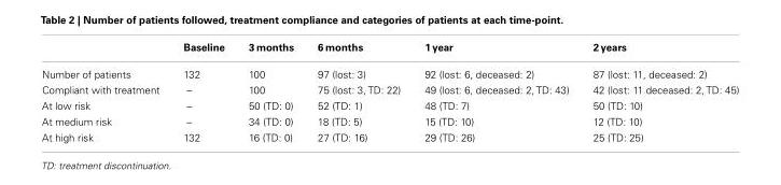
<table><thead><tr><td></td><td>Baseline</td><td>3 months</td><td>6 months</td><td>1 year</td><td>2 years</td></tr></thead><tbody><tr><td>Number of patients</td><td>132</td><td>100</td><td>97 (lost: 3)</td><td>92 (lost: 6, deceased: 2)</td><td>87 (lost: 11, deceased: 2)</td></tr><tr><td>Compliant with treatment</td><td>–</td><td>100</td><td>75 (lost: 3, TD: 22)</td><td>49 (lost: 6, deceased: 2, TD: 43)</td><td>42 (lost: 11 deceased: 2, TD: 45)</td></tr><tr><td>At low risk</td><td>–</td><td>50 (TD: 0)</td><td>52 (TD: 1)</td><td>48 (TD: 7)</td><td>50 (TD: 10)</td></tr><tr><td>At medium risk</td><td>–</td><td>34 (TD: 0)</td><td>18 (TD: 5)</td><td>15 (TD: 10)</td><td>12 (TD: 10)</td></tr><tr><td>At high risk</td><td>132</td><td>16 (TD: 0)</td><td>27 (TD: 16)</td><td>29 (TD: 26)</td><td>25 (TD: 25)</td></tr></tbody></table>